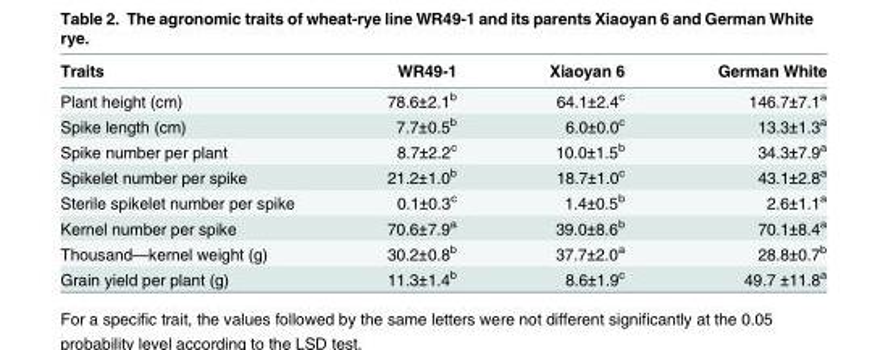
<table><thead><tr><td>Traits</td><td>WR49-1</td><td>Xiaoyan 6</td><td>German White</td></tr></thead><tbody><tr><td>Plant height (cm)</td><td>78.6±2.1<sup>b</sup></td><td>64.1±2.4<sup>c</sup></td><td>146.7±7.1<sup>a</sup></td></tr><tr><td>Spike length (cm)</td><td>7.7±0.5<sup>b</sup></td><td>6.0±0.0<sup>c</sup></td><td>13.3±1.3<sup>a</sup></td></tr><tr><td>Spike number per plant</td><td>8.7±2.2<sup>c</sup></td><td>10.0±1.5<sup>b</sup></td><td>34.3±7.9<sup>a</sup></td></tr><tr><td>Spikelet number per spike</td><td>21.2±1.0<sup>b</sup></td><td>18.7±1.0<sup>c</sup></td><td>43.1±2.8<sup>a</sup></td></tr><tr><td>Sterile spikelet number per spike</td><td>0.1±0.3<sup>c</sup></td><td>1.4±0.5<sup>b</sup></td><td>2.6±1.1<sup>a</sup></td></tr><tr><td>Kernel number per spike</td><td>70.6±7.9<sup>a</sup></td><td>39.0±8.6<sup>b</sup></td><td>70.1±8.4<sup>a</sup></td></tr><tr><td>Thousand—kernel weight (g)</td><td>30.2±0.8<sup>b</sup></td><td>37.7±2.0<sup>a</sup></td><td>28.8±0.7<sup>b</sup></td></tr><tr><td>Grain yield per plant (g)</td><td>11.3±1.4<sup>b</sup></td><td>8.6±1.9<sup>c</sup></td><td>49.7 ±11.8<sup>a</sup></td></tr></tbody></table>